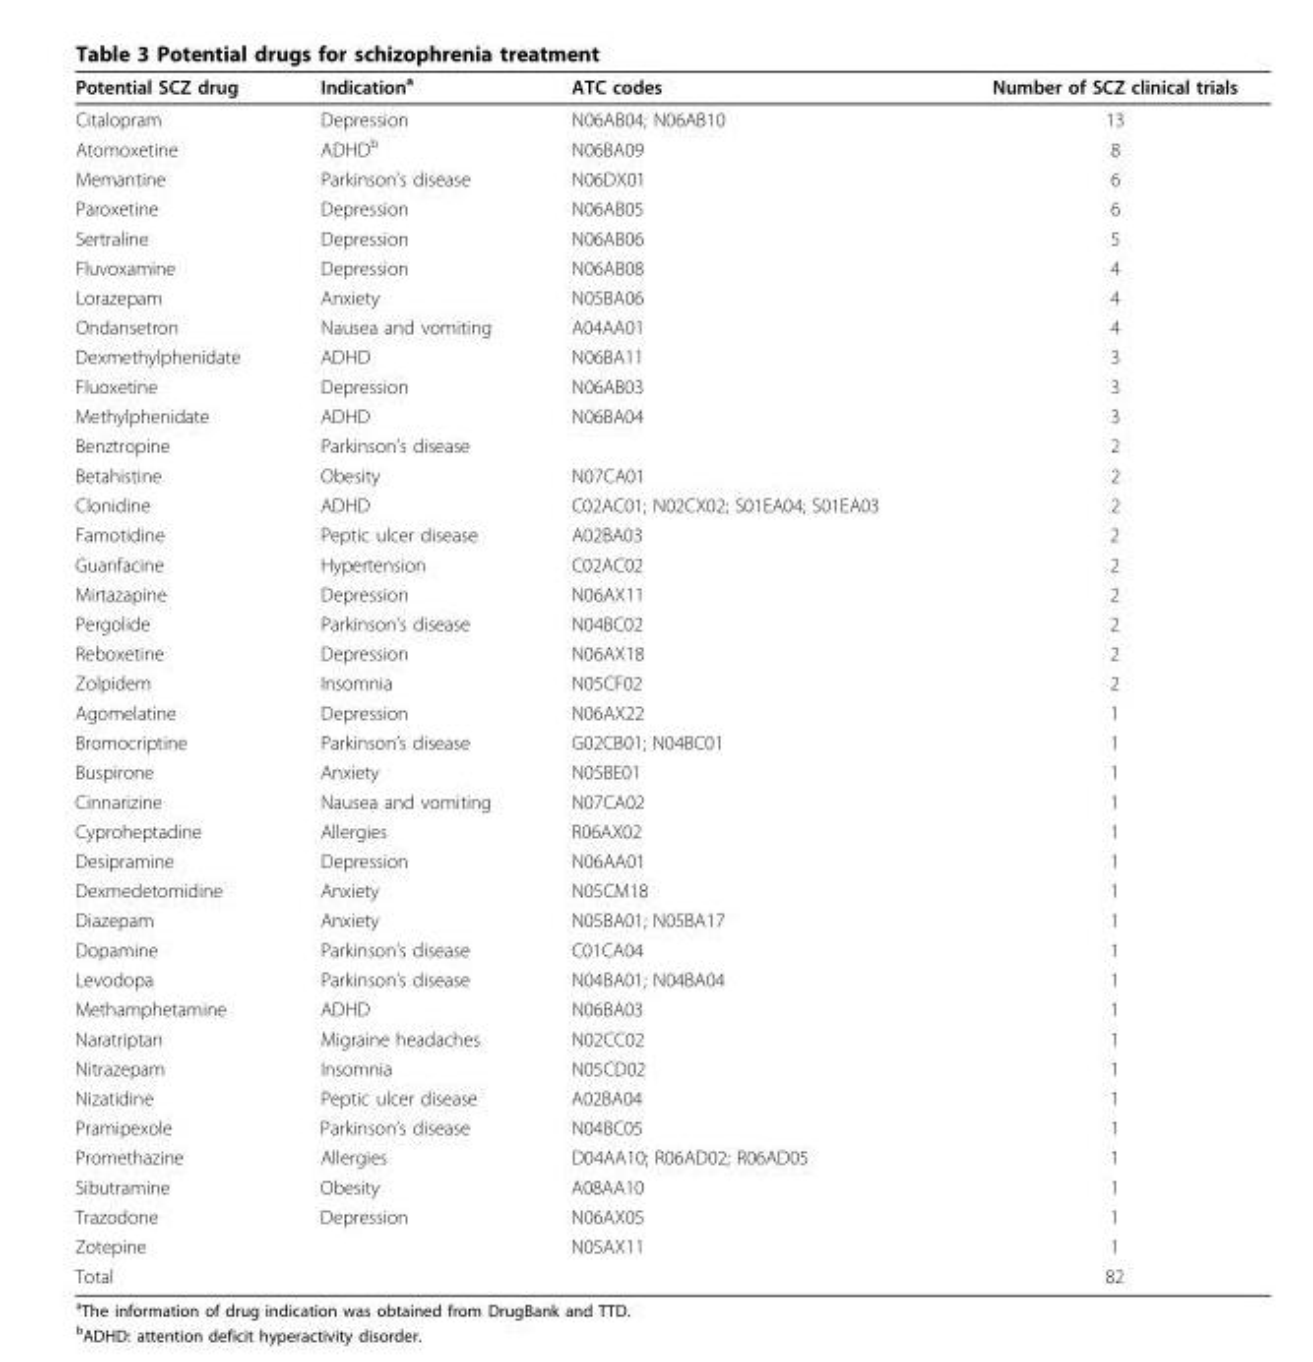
<table><thead><tr><td>Potential SCZ drug</td><td>Indication<sup>a</sup></td><td>ATC codes</td><td>Number of SCZ clinical trials</td></tr></thead><tbody><tr><td>Citalopram</td><td>Depression</td><td>N06AB04; N06AB10</td><td>13</td></tr><tr><td>Atomoxetine</td><td>ADHD<sup>b</sup></td><td>N06BA09</td><td>8</td></tr><tr><td>Memantine</td><td>Parkinson’s disease</td><td>N06DX01</td><td>6</td></tr><tr><td>Paroxetine</td><td>Depression</td><td>N06AB05</td><td>6</td></tr><tr><td>Sertraline</td><td>Depression</td><td>N06AB06</td><td>5</td></tr><tr><td>Fluvoxamine</td><td>Depression</td><td>N06AB08</td><td>4</td></tr><tr><td>Lorazepam</td><td>Anxiety</td><td>N05BA06</td><td>4</td></tr><tr><td>Ondansetron</td><td>Nausea and vomiting</td><td>A04AA01</td><td>4</td></tr><tr><td>Dexmethylphenidate</td><td>ADHD</td><td>N06BA11</td><td>3</td></tr><tr><td>Fluoxetine</td><td>Depression</td><td>N06AB03</td><td>3</td></tr><tr><td>Methylphenidate</td><td>ADHD</td><td>N06BA04</td><td>3</td></tr><tr><td>Benztropine</td><td>Parkinson’s disease</td><td></td><td>2</td></tr><tr><td>Betahistine</td><td>Obesity</td><td>N07CA01</td><td>2</td></tr><tr><td>Clonidine</td><td>ADHD</td><td>C02AC01; N02CX02; S01EA04; S01EA03</td><td>2</td></tr><tr><td>Famotidine</td><td>Peptic ulcer disease</td><td>A02BA03</td><td>2</td></tr><tr><td>Guanfacine</td><td>Hypertension</td><td>C02AC02</td><td>2</td></tr><tr><td>Mirtazapine</td><td>Depression</td><td>N06AX11</td><td>2</td></tr><tr><td>Pergolide</td><td>Parkinson’s disease</td><td>N04BC02</td><td>2</td></tr><tr><td>Reboxetine</td><td>Depression</td><td>N06AX18</td><td>2</td></tr><tr><td>Zolpidem</td><td>Insomnia</td><td>N05CF02</td><td>2</td></tr><tr><td>Agomelatine</td><td>Depression</td><td>N06AX22</td><td>1</td></tr><tr><td>Bromocriptine</td><td>Parkinson’s disease</td><td>G02CB01; N04BC01</td><td>1</td></tr><tr><td>Buspirone</td><td>Anxiety</td><td>N05BE01</td><td>1</td></tr><tr><td>Cinnarizine</td><td>Nausea and vomiting</td><td>N07CA02</td><td>1</td></tr><tr><td>Cyproheptadine</td><td>Allergies</td><td>R06AX02</td><td>1</td></tr><tr><td>Desipramine</td><td>Depression</td><td>N06AA01</td><td>1</td></tr><tr><td>Dexmedetomidine</td><td>Anxiety</td><td>N05CM18</td><td>1</td></tr><tr><td>Diazepam</td><td>Anxiety</td><td>N05BA01; N05BA17</td><td>1</td></tr><tr><td>Dopamine</td><td>Parkinson’s disease</td><td>C01CA04</td><td>1</td></tr><tr><td>Levodopa</td><td>Parkinson’s disease</td><td>N04BA01; N04BA04</td><td>1</td></tr><tr><td>Methamphetamine</td><td>ADHD</td><td>N06BA03</td><td>1</td></tr><tr><td>Naratriptan</td><td>Migraine headaches</td><td>N02CC02</td><td>1</td></tr><tr><td>Nitrazepam</td><td>Insomnia</td><td>N05CD02</td><td>1</td></tr><tr><td>Nizatidine</td><td>Peptic ulcer disease</td><td>A02BA04</td><td>1</td></tr><tr><td>Pramipexole</td><td>Parkinson’s disease</td><td>N04BC05</td><td>1</td></tr><tr><td>Promethazine</td><td>Allergies</td><td>D04AA10; R06AD02; R06AD05</td><td>1</td></tr><tr><td>Sibutramine</td><td>Obesity</td><td>A08AA10</td><td>1</td></tr><tr><td>Trazodone</td><td>Depression</td><td>N06AX05</td><td>1</td></tr><tr><td>Zotepine</td><td></td><td>N05AX11</td><td>1</td></tr><tr><td>Total</td><td></td><td></td><td>82</td></tr></tbody></table>